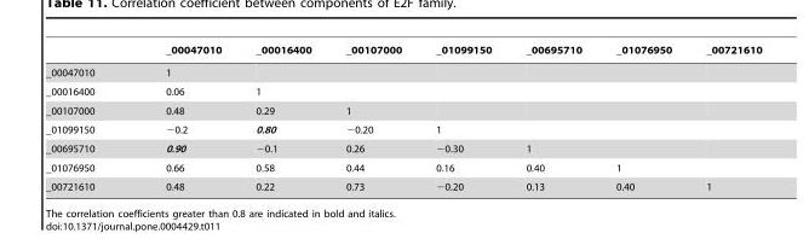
<table><thead><tr><td></td><td>_00047010</td><td>_00016400</td><td>_00107000</td><td>_01099150</td><td>_00695710</td><td>_01076950</td><td>_00721610</td></tr></thead><tbody><tr><td>_00047010</td><td>1</td><td></td><td></td><td></td><td></td><td></td><td></td></tr><tr><td>_00016400</td><td>0.06</td><td>1</td><td></td><td></td><td></td><td></td><td></td></tr><tr><td>_00107000</td><td>0.48</td><td>0.29</td><td>1</td><td></td><td></td><td></td><td></td></tr><tr><td>_01099150</td><td>−0.2</td><td>0.80</td><td>−0.20</td><td>1</td><td></td><td></td><td></td></tr><tr><td>_00695710</td><td>0.90</td><td>−0.1</td><td>0.26</td><td>−0.30</td><td>1</td><td></td><td></td></tr><tr><td>_01076950</td><td>0.66</td><td>0.58</td><td>0.44</td><td>0.16</td><td>0.40</td><td>1</td><td></td></tr><tr><td>_00721610</td><td>0.48</td><td>0.22</td><td>0.73</td><td>−0.20</td><td>0.13</td><td>0.40</td><td>1</td></tr></tbody></table>